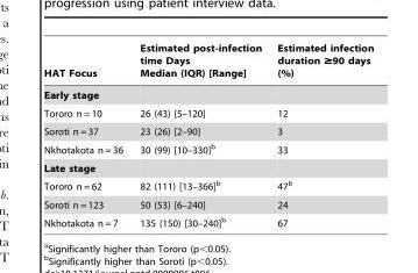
<table><thead><tr><td>HAT Focus</td><td>Estimated post-infection time Days Median (IQR) [Range]</td><td>Estimated infection duration ≥90 days (%)</td></tr></thead><tbody><tr><td colspan="3">Early stage</td></tr><tr><td>Tororo n = 10</td><td>26 (43) [5–120]</td><td>12</td></tr><tr><td>Soroti n = 37</td><td>23 (26) [2–90]</td><td>3</td></tr><tr><td>Nkhotakota n = 36</td><td>30 (99) [10–330]<sup>b</sup></td><td>33</td></tr><tr><td colspan="3">Late stage</td></tr><tr><td>Tororo n = 62</td><td>82 (111) [13–366]<sup>b</sup></td><td>47<sup>b</sup></td></tr><tr><td>Soroti n = 123</td><td>50 (53) [6–240]</td><td>24</td></tr><tr><td>Nkhotakota n = 7</td><td>135 (150) [30–240]<sup>b</sup></td><td>67</td></tr></tbody></table>